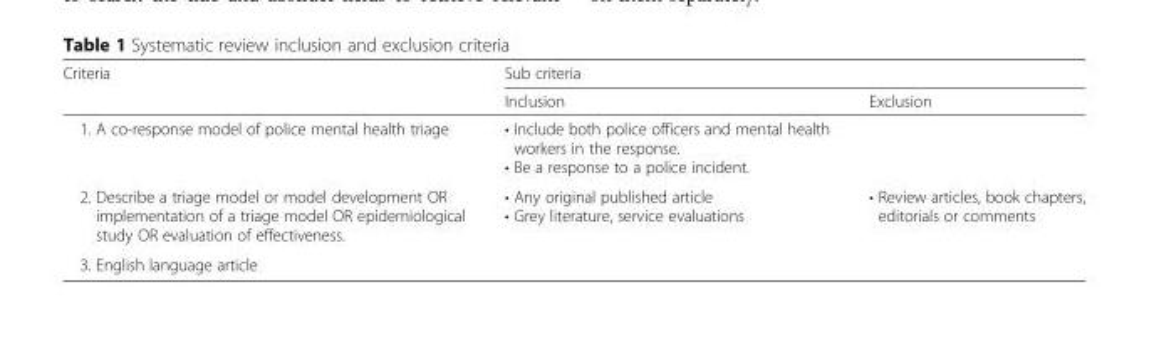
<table><thead><tr><td rowspan="2">Criteria</td><td colspan="2">Sub criteria</td></tr><tr><td>Inclusion</td><td>Exclusion</td></tr></thead><tbody><tr><td>1. A co-response model of police mental health triage</td><td>• Include both police officers and mental health workers in the response. • Be a response to a police incident.</td><td></td></tr><tr><td>2. Describe a triage model or model development OR implementation of a triage model OR epidemiological study OR evaluation of effectiveness.</td><td>• Any original published article • Grey literature, service evaluations</td><td>• Review articles, book chapters, editorials or comments</td></tr><tr><td>3. English language article</td><td></td><td></td></tr></tbody></table>